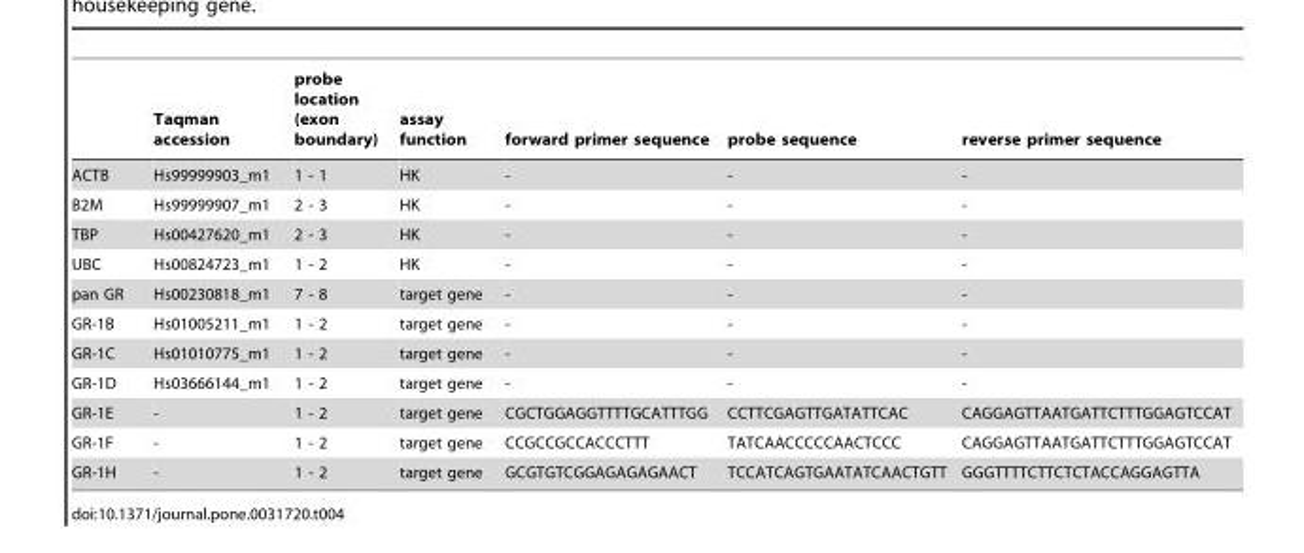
<table><thead><tr><td></td><td>Taqman accession</td><td>probe location (exon boundary)</td><td>assay function</td><td>forward primer sequence</td><td>probe sequence</td><td>reverse primer sequence</td></tr></thead><tbody><tr><td>ACTB</td><td>Hs99999903_m1</td><td>1 - 1</td><td>HK</td><td>-</td><td>-</td><td>-</td></tr><tr><td>B2M</td><td>Hs99999907_m1</td><td>2 - 3</td><td>HK</td><td>-</td><td>-</td><td>-</td></tr><tr><td>TBP</td><td>Hs00427620_m1</td><td>2 - 3</td><td>HK</td><td>-</td><td>-</td><td>-</td></tr><tr><td>UBC</td><td>Hs00824723_m1</td><td>1 - 2</td><td>HK</td><td>-</td><td>-</td><td>-</td></tr><tr><td>pan GR</td><td>Hs00230818_m1</td><td>7 - 8</td><td>target gene</td><td>-</td><td>-</td><td>-</td></tr><tr><td>GR-1B</td><td>Hs01005211_m1</td><td>1 - 2</td><td>target gene</td><td>-</td><td>-</td><td>-</td></tr><tr><td>GR-1C</td><td>Hs01010775_m1</td><td>1 - 2</td><td>target gene</td><td>-</td><td>-</td><td>-</td></tr><tr><td>GR-1D</td><td>Hs03666144_m1</td><td>1 - 2</td><td>target gene</td><td>-</td><td>-</td><td>-</td></tr><tr><td>GR-1E</td><td>-</td><td>1 - 2</td><td>target gene</td><td>CGCTGGAGGTTTTGCATTTGG</td><td>CCTTCGAGTTGATATTCAC</td><td>CAGGAGTTAATGATTCTTTGGAGTCCAT</td></tr><tr><td>GR-1F</td><td>-</td><td>1 - 2</td><td>target gene</td><td>CCGCCGCCACCCTTT</td><td>TATCAACCCCCAACTCCC</td><td>CAGGAGTTAATGATTCTTTGGAGTCCAT</td></tr><tr><td>GR-1H</td><td>-</td><td>1 - 2</td><td>target gene</td><td>GCGTGTCGGAGAGAGAACT</td><td>TCCATCAGTGAATATCAACTGTT</td><td>GGGTTTTCTTCTCTACCAGGAGTTA</td></tr></tbody></table>